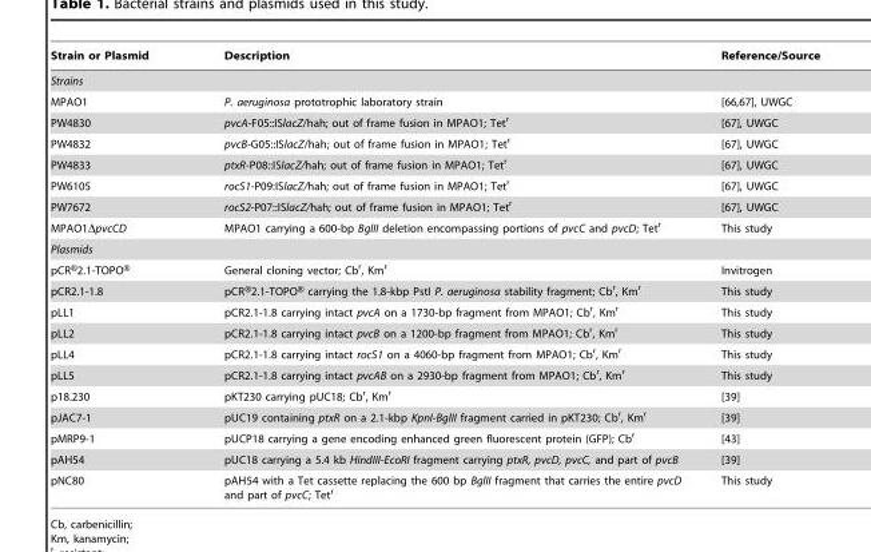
<table><thead><tr><td>Strain or Plasmid</td><td>Description</td><td>Reference/Source</td></tr></thead><tbody><tr><td colspan="3">Strains</td></tr><tr><td>MPAO1</td><td>P. aeruginosa prototrophic laboratory strain</td><td>[66,67], UWGC</td></tr><tr><td>PW4830</td><td>pvcA-F05::ISlacZ/hah; out of frame fusion in MPAO1; Tet<sup>r</sup></td><td>[67], UWGC</td></tr><tr><td>PW4832</td><td>pvcB-G05::ISlacZ/hah; out of frame fusion in MPAO1; Tet<sup>r</sup></td><td>[67], UWGC</td></tr><tr><td>PW4833</td><td>ptxR-P08::ISlacZ/hah; out of frame fusion in MPAO1; Tet<sup>r</sup></td><td>[67], UWGC</td></tr><tr><td>PW6105</td><td>rocS1-P09:ISlacZ/hah; out of frame fusion in MPAO1; Tet<sup>r</sup></td><td>[67], UWGC</td></tr><tr><td>PW7672</td><td>rocS2-P07::ISlacZ/hah; out of frame fusion in MPAO1; Tet<sup>r</sup></td><td>[67], UWGC</td></tr><tr><td>MPAO1ΔpvcCD</td><td>MPAO1 carrying a 600-bp BglII deletion encompassing portions of pvcC and pvcD; Tet<sup>r</sup></td><td>This study</td></tr><tr><td colspan="3">Plasmids</td></tr><tr><td>pCR®2.1-TOPO®</td><td>General cloning vector; Cb<sup>r</sup>, Km<sup>r</sup></td><td>Invitrogen</td></tr><tr><td>pCR2.1-1.8</td><td>pCR®2.1-TOPO® carrying the 1.8-kbp PstI P. aeruginosa stability fragment; Cb<sup>r</sup>, Km<sup>r</sup></td><td>This study</td></tr><tr><td>pLL1</td><td>pCR2.1-1.8 carrying intact pvcA on a 1730-bp fragment from MPAO1; Cb<sup>r</sup>, Km<sup>r</sup></td><td>This study</td></tr><tr><td>pLL2</td><td>pCR2.1-1.8 carrying intact pvcB on a 1200-bp fragment from MPAO1; Cb<sup>r</sup>, Km<sup>r</sup></td><td>This study</td></tr><tr><td>pLL4</td><td>pCR2.1-1.8 carrying intact rocS1 on a 4060-bp fragment from MPAO1; Cb<sup>r</sup>, Km<sup>r</sup></td><td>This study</td></tr><tr><td>pLL5</td><td>pCR2.1-1.8 carrying intact pvcAB on a 2930-bp fragment from MPAO1; Cb<sup>r</sup>, Km<sup>r</sup></td><td>This study</td></tr><tr><td>p18.230</td><td>pKT230 carrying pUC18; Cb<sup>r</sup>, Km<sup>r</sup></td><td>[39]</td></tr><tr><td>pJAC7-1</td><td>pUC19 containing ptxR on a 2.1-kbp KpnI-BglII fragment carried in pKT230; Cb<sup>r</sup>, Km<sup>r</sup></td><td>[39]</td></tr><tr><td>pMRP9-1</td><td>pUCP18 carrying a gene encoding enhanced green fluorescent protein (GFP); Cb<sup>r</sup></td><td>[43]</td></tr><tr><td>pAH54</td><td>pUC18 carrying a 5.4 kb HindIII-EcoRI fragment carrying ptxR, pvcD, pvcC, and part of pvcB</td><td>[39]</td></tr><tr><td>pNC80</td><td>pAH54 with a Tet cassette replacing the 600 bp BglII fragment that carries the entire pvcD and part of pvcC; Tet<sup>r</sup></td><td>This study</td></tr></tbody></table>